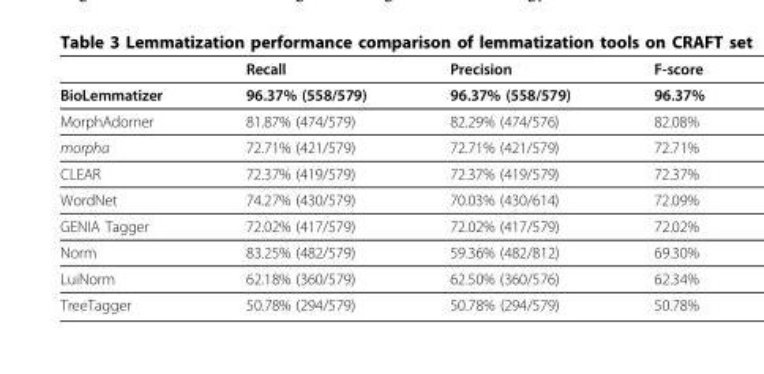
<table><thead><tr><td></td><td>Recall</td><td>Precision</td><td>F-score</td></tr></thead><tbody><tr><td>BioLemmatizer</td><td>96.37% (558/579)</td><td>96.37% (558/579)</td><td>96.37%</td></tr><tr><td>MorphAdorner</td><td>81.87% (474/579)</td><td>82.29% (474/576)</td><td>82.08%</td></tr><tr><td>morpha</td><td>72.71% (421/579)</td><td>72.71% (421/579)</td><td>72.71%</td></tr><tr><td>CLEAR</td><td>72.37% (419/579)</td><td>72.37% (419/579)</td><td>72.37%</td></tr><tr><td>WordNet</td><td>74.27% (430/579)</td><td>70.03% (430/614)</td><td>72.09%</td></tr><tr><td>GENIA Tagger</td><td>72.02% (417/579)</td><td>72.02% (417/579)</td><td>72.02%</td></tr><tr><td>Norm</td><td>83.25% (482/579)</td><td>59.36% (482/812)</td><td>69.30%</td></tr><tr><td>LuiNorm</td><td>62.18% (360/579)</td><td>62.50% (360/576)</td><td>62.34%</td></tr><tr><td>TreeTagger</td><td>50.78% (294/579)</td><td>50.78% (294/579)</td><td>50.78%</td></tr></tbody></table>